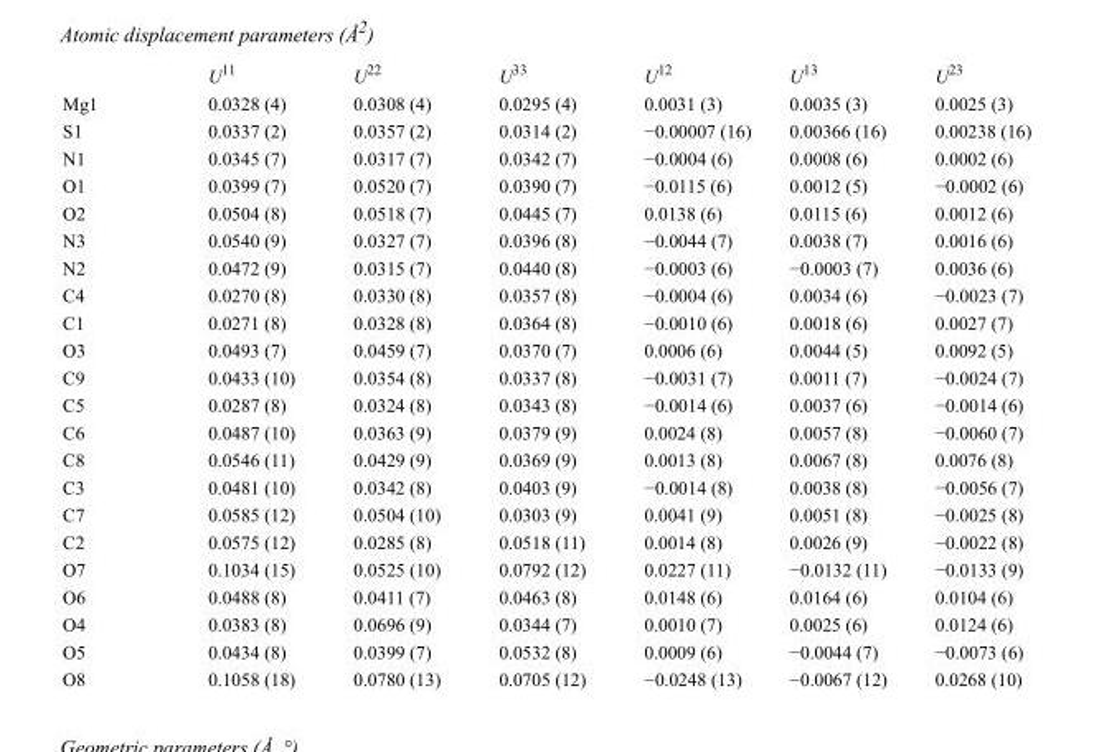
<table><thead><tr><td></td><td>U<sup>11</sup></td><td>U<sup>22</sup></td><td>U<sup>33</sup></td><td>U<sup>12</sup></td><td>U<sup>13</sup></td><td>U<sup>23</sup></td></tr></thead><tbody><tr><td>Mg1</td><td>0.0328 (4)</td><td>0.0308 (4)</td><td>0.0295 (4)</td><td>0.0031 (3)</td><td>0.0035 (3)</td><td>0.0025 (3)</td></tr><tr><td>S1</td><td>0.0337 (2)</td><td>0.0357 (2)</td><td>0.0314 (2)</td><td>−0.00007 (16)</td><td>0.00366 (16)</td><td>0.00238 (16)</td></tr><tr><td>N1</td><td>0.0345 (7)</td><td>0.0317 (7)</td><td>0.0342 (7)</td><td>−0.0004 (6)</td><td>0.0008 (6)</td><td>0.0002 (6)</td></tr><tr><td>O1</td><td>0.0399 (7)</td><td>0.0520 (7)</td><td>0.0390 (7)</td><td>−0.0115 (6)</td><td>0.0012 (5)</td><td>−0.0002 (6)</td></tr><tr><td>O2</td><td>0.0504 (8)</td><td>0.0518 (7)</td><td>0.0445 (7)</td><td>0.0138 (6)</td><td>0.0115 (6)</td><td>0.0012 (6)</td></tr><tr><td>N3</td><td>0.0540 (9)</td><td>0.0327 (7)</td><td>0.0396 (8)</td><td>−0.0044 (7)</td><td>0.0038 (7)</td><td>0.0016 (6)</td></tr><tr><td>N2</td><td>0.0472 (9)</td><td>0.0315 (7)</td><td>0.0440 (8)</td><td>−0.0003 (6)</td><td>−0.0003 (7)</td><td>0.0036 (6)</td></tr><tr><td>C4</td><td>0.0270 (8)</td><td>0.0330 (8)</td><td>0.0357 (8)</td><td>−0.0004 (6)</td><td>0.0034 (6)</td><td>−0.0023 (7)</td></tr><tr><td>C1</td><td>0.0271 (8)</td><td>0.0328 (8)</td><td>0.0364 (8)</td><td>−0.0010 (6)</td><td>0.0018 (6)</td><td>0.0027 (7)</td></tr><tr><td>O3</td><td>0.0493 (7)</td><td>0.0459 (7)</td><td>0.0370 (7)</td><td>0.0006 (6)</td><td>0.0044 (5)</td><td>0.0092 (5)</td></tr><tr><td>C9</td><td>0.0433 (10)</td><td>0.0354 (8)</td><td>0.0337 (8)</td><td>−0.0031 (7)</td><td>0.0011 (7)</td><td>−0.0024 (7)</td></tr><tr><td>C5</td><td>0.0287 (8)</td><td>0.0324 (8)</td><td>0.0343 (8)</td><td>−0.0014 (6)</td><td>0.0037 (6)</td><td>−0.0014 (6)</td></tr><tr><td>C6</td><td>0.0487 (10)</td><td>0.0363 (9)</td><td>0.0379 (9)</td><td>0.0024 (8)</td><td>0.0057 (8)</td><td>−0.0060 (7)</td></tr><tr><td>C8</td><td>0.0546 (11)</td><td>0.0429 (9)</td><td>0.0369 (9)</td><td>0.0013 (8)</td><td>0.0067 (8)</td><td>0.0076 (8)</td></tr><tr><td>C3</td><td>0.0481 (10)</td><td>0.0342 (8)</td><td>0.0403 (9)</td><td>−0.0014 (8)</td><td>0.0038 (8)</td><td>−0.0056 (7)</td></tr><tr><td>C7</td><td>0.0585 (12)</td><td>0.0504 (10)</td><td>0.0303 (9)</td><td>0.0041 (9)</td><td>0.0051 (8)</td><td>−0.0025 (8)</td></tr><tr><td>C2</td><td>0.0575 (12)</td><td>0.0285 (8)</td><td>0.0518 (11)</td><td>0.0014 (8)</td><td>0.0026 (9)</td><td>−0.0022 (8)</td></tr><tr><td>O7</td><td>0.1034 (15)</td><td>0.0525 (10)</td><td>0.0792 (12)</td><td>0.0227 (11)</td><td>−0.0132 (11)</td><td>−0.0133 (9)</td></tr><tr><td>O6</td><td>0.0488 (8)</td><td>0.0411 (7)</td><td>0.0463 (8)</td><td>0.0148 (6)</td><td>0.0164 (6)</td><td>0.0104 (6)</td></tr><tr><td>O4</td><td>0.0383 (8)</td><td>0.0696 (9)</td><td>0.0344 (7)</td><td>0.0010 (7)</td><td>0.0025 (6)</td><td>0.0124 (6)</td></tr><tr><td>O5</td><td>0.0434 (8)</td><td>0.0399 (7)</td><td>0.0532 (8)</td><td>0.0009 (6)</td><td>−0.0044 (7)</td><td>−0.0073 (6)</td></tr><tr><td>O8</td><td>0.1058 (18)</td><td>0.0780 (13)</td><td>0.0705 (12)</td><td>−0.0248 (13)</td><td>−0.0067 (12)</td><td>0.0268 (10)</td></tr></tbody></table>